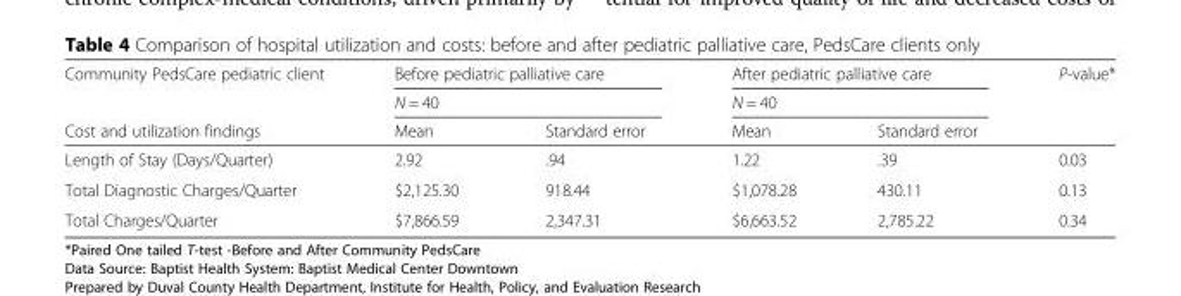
<table><thead><tr><td rowspan="3">Community PedsCare pediatric client Cost and utilization findings</td><td rowspan="2" colspan="2">Before pediatric palliative care N = 40</td><td rowspan="2" colspan="2">After pediatric palliative care N = 40</td><td rowspan="3">P-value*</td></tr><tr></tr><tr><td>Mean</td><td>Standard error</td><td>Mean</td><td>Standard error</td></tr></thead><tbody><tr><td>Length of Stay (Days/Quarter)</td><td>2.92</td><td>.94</td><td>1.22</td><td>.39</td><td>0.03</td></tr><tr><td>Total Diagnostic Charges/Quarter</td><td>$2,125.30</td><td>918.44</td><td>$1,078.28</td><td>430.11</td><td>0.13</td></tr><tr><td>Total Charges/Quarter</td><td>$7,866.59</td><td>2,347.31</td><td>$6,663.52</td><td>2,785.22</td><td>0.34</td></tr></tbody></table>